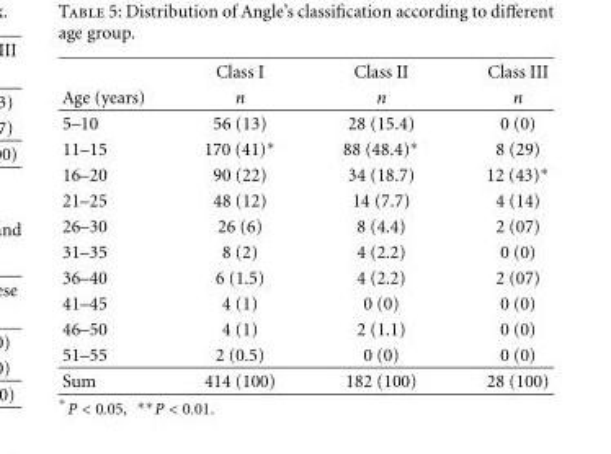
<table><thead><tr><td rowspan="2">Age (years)</td><td rowspan="2">Class I n</td><td rowspan="2">Class II n</td><td rowspan="2">Class III n</td></tr><tr></tr></thead><tbody><tr><td>5–10</td><td>56 (13)</td><td>28 (15.4)</td><td>0 (0)</td></tr><tr><td>11–15</td><td>170 (41)∗</td><td>88 (48.4)∗</td><td>8 (29)</td></tr><tr><td>16–20</td><td>90 (22)</td><td>34 (18.7)</td><td>12 (43)∗</td></tr><tr><td>21–25</td><td>48 (12)</td><td>14 (7.7)</td><td>4 (14)</td></tr><tr><td>26–30</td><td>26 (6)</td><td>8 (4.4)</td><td>2 (07)</td></tr><tr><td>31–35</td><td>8 (2)</td><td>4 (2.2)</td><td>0 (0)</td></tr><tr><td>36–40</td><td>6 (1.5)</td><td>4 (2.2)</td><td>2 (07)</td></tr><tr><td>41–45</td><td>4 (1)</td><td>0 (0)</td><td>0 (0)</td></tr><tr><td>46–50</td><td>4 (1)</td><td>2 (1.1)</td><td>0 (0)</td></tr><tr><td>51–55</td><td>2 (0.5)</td><td>0 (0)</td><td>0 (0)</td></tr><tr><td>Sum</td><td>414 (100)</td><td>182 (100)</td><td>28 (100)</td></tr></tbody></table>